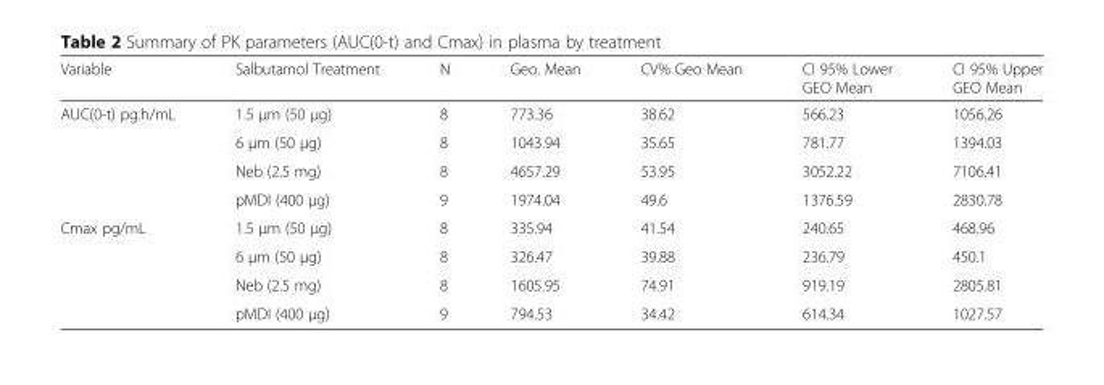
<table><thead><tr><td>Variable</td><td>Salbutamol Treatment</td><td>N</td><td>Geo. Mean</td><td>CV% Geo Mean</td><td>CI 95% Lower GEO Mean</td><td>CI 95% Upper GEO Mean</td></tr></thead><tbody><tr><td rowspan="4">AUC(0-t) pg.h/mL</td><td>1.5 μm (50 μg)</td><td>8</td><td>773.36</td><td>38.62</td><td>566.23</td><td>1056.26</td></tr><tr><td>6 μm (50 μg)</td><td>8</td><td>1043.94</td><td>35.65</td><td>781.77</td><td>1394.03</td></tr><tr><td>Neb (2.5 mg)</td><td>8</td><td>4657.29</td><td>53.95</td><td>3052.22</td><td>7106.41</td></tr><tr><td>pMDI (400 μg)</td><td>9</td><td>1974.04</td><td>49.6</td><td>1376.59</td><td>2830.78</td></tr><tr><td rowspan="4">Cmax pg/mL</td><td>1.5 μm (50 μg)</td><td>8</td><td>335.94</td><td>41.54</td><td>240.65</td><td>468.96</td></tr><tr><td>6 μm (50 μg)</td><td>8</td><td>326.47</td><td>39.88</td><td>236.79</td><td>450.1</td></tr><tr><td>Neb (2.5 mg)</td><td>8</td><td>1605.95</td><td>74.91</td><td>919.19</td><td>2805.81</td></tr><tr><td>pMDI (400 μg)</td><td>9</td><td>794.53</td><td>34.42</td><td>614.34</td><td>1027.57</td></tr></tbody></table>